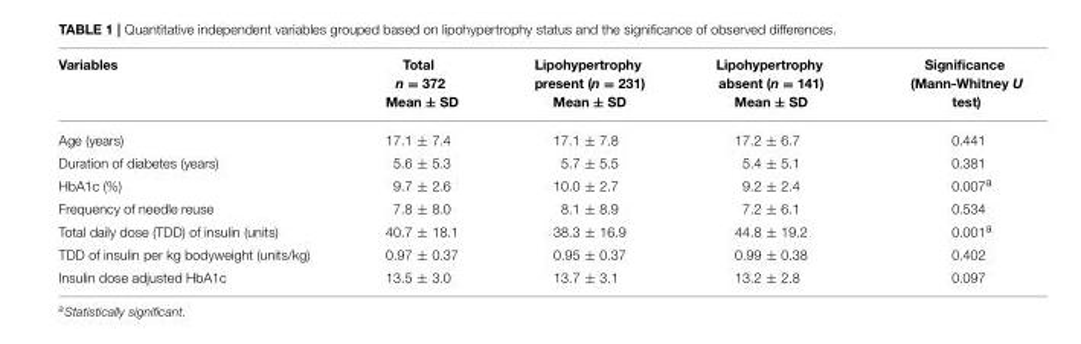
<table><thead><tr><td>Variables</td><td>Total n = 372 Mean ± SD</td><td>Lipohypertrophy present (n = 231) Mean ± SD</td><td>Lipohypertrophy absent (n = 141) Mean ± SD</td><td>Significance (Mann-Whitney U test)</td></tr></thead><tbody><tr><td>Age (years)</td><td>17.1 ± 7.4</td><td>17.1 ± 7.8</td><td>17.2 ± 6.7</td><td>0.441</td></tr><tr><td>Duration of diabetes (years)</td><td>5.6 ± 5.3</td><td>5.7 ± 5.5</td><td>5.4 ± 5.1</td><td>0.381</td></tr><tr><td>HbA1c (%)</td><td>9.7 ± 2.6</td><td>10.0 ± 2.7</td><td>9.2 ± 2.4</td><td>0.007<sup>a</sup></td></tr><tr><td>Frequency of needle reuse</td><td>7.8 ± 8.0</td><td>8.1 ± 8.9</td><td>7.2 ± 6.1</td><td>0.534</td></tr><tr><td>Total daily dose (TDD) of insulin (units)</td><td>40.7 ± 18.1</td><td>38.3 ± 16.9</td><td>44.8 ± 19.2</td><td>0.001<sup>a</sup></td></tr><tr><td>TDD of insulin per kg bodyweight (units/kg)</td><td>0.97 ± 0.37</td><td>0.95 ± 0.37</td><td>0.99 ± 0.38</td><td>0.402</td></tr><tr><td>Insulin dose adjusted HbA1c</td><td>13.5 ± 3.0</td><td>13.7 ± 3.1</td><td>13.2 ± 2.8</td><td>0.097</td></tr></tbody></table>